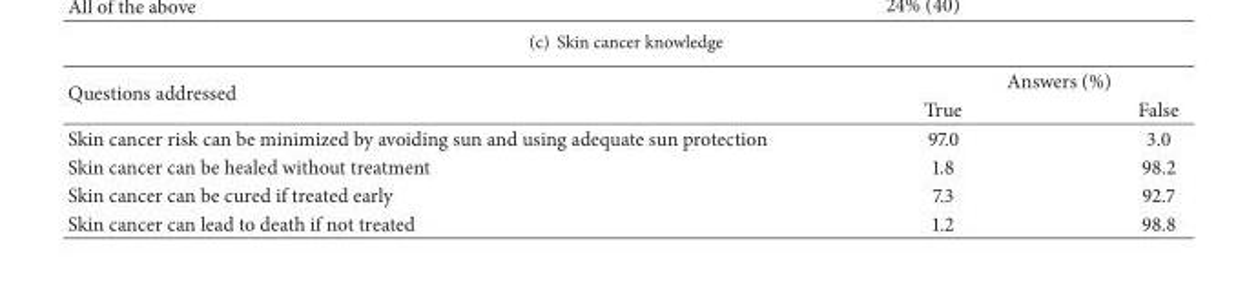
<table><thead><tr><td rowspan="2">Questions addressed</td><td colspan="2">Answers (%)</td></tr><tr><td>True</td><td>False</td></tr></thead><tbody><tr><td>Skin cancer risk can be minimized by avoiding sun and using adequate sun protection</td><td>97.0</td><td>3.0</td></tr><tr><td>Skin cancer can be healed without treatment</td><td>1.8</td><td>98.2</td></tr><tr><td>Skin cancer can be cured if treated early</td><td>7.3</td><td>92.7</td></tr><tr><td>Skin cancer can lead to death if not treated</td><td>1.2</td><td>98.8</td></tr></tbody></table>